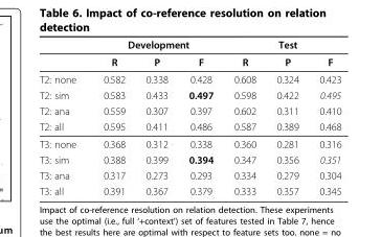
<table><thead><tr><td rowspan="2"></td><td colspan="3">Development</td><td colspan="3">Test</td></tr><tr><td>R</td><td>P</td><td>F</td><td>R</td><td>P</td><td>F</td></tr></thead><tbody><tr><td>T2: none</td><td>0.582</td><td>0.338</td><td>0.428</td><td>0.608</td><td>0.324</td><td>0.423</td></tr><tr><td>T2: sim</td><td>0.583</td><td>0.433</td><td>0.497</td><td>0.598</td><td>0.422</td><td>0.495</td></tr><tr><td>T2: ana</td><td>0.559</td><td>0.307</td><td>0.397</td><td>0.602</td><td>0.311</td><td>0.410</td></tr><tr><td>T2: all</td><td>0.595</td><td>0.411</td><td>0.486</td><td>0.587</td><td>0.389</td><td>0.468</td></tr><tr><td>T3: none</td><td>0.368</td><td>0.312</td><td>0.338</td><td>0.360</td><td>0.281</td><td>0.316</td></tr><tr><td>T3: sim</td><td>0.388</td><td>0.399</td><td>0.394</td><td>0.347</td><td>0.356</td><td>0.351</td></tr><tr><td>T3: ana</td><td>0.317</td><td>0.273</td><td>0.293</td><td>0.334</td><td>0.279</td><td>0.304</td></tr><tr><td>T3: all</td><td>0.391</td><td>0.367</td><td>0.379</td><td>0.333</td><td>0.357</td><td>0.345</td></tr></tbody></table>